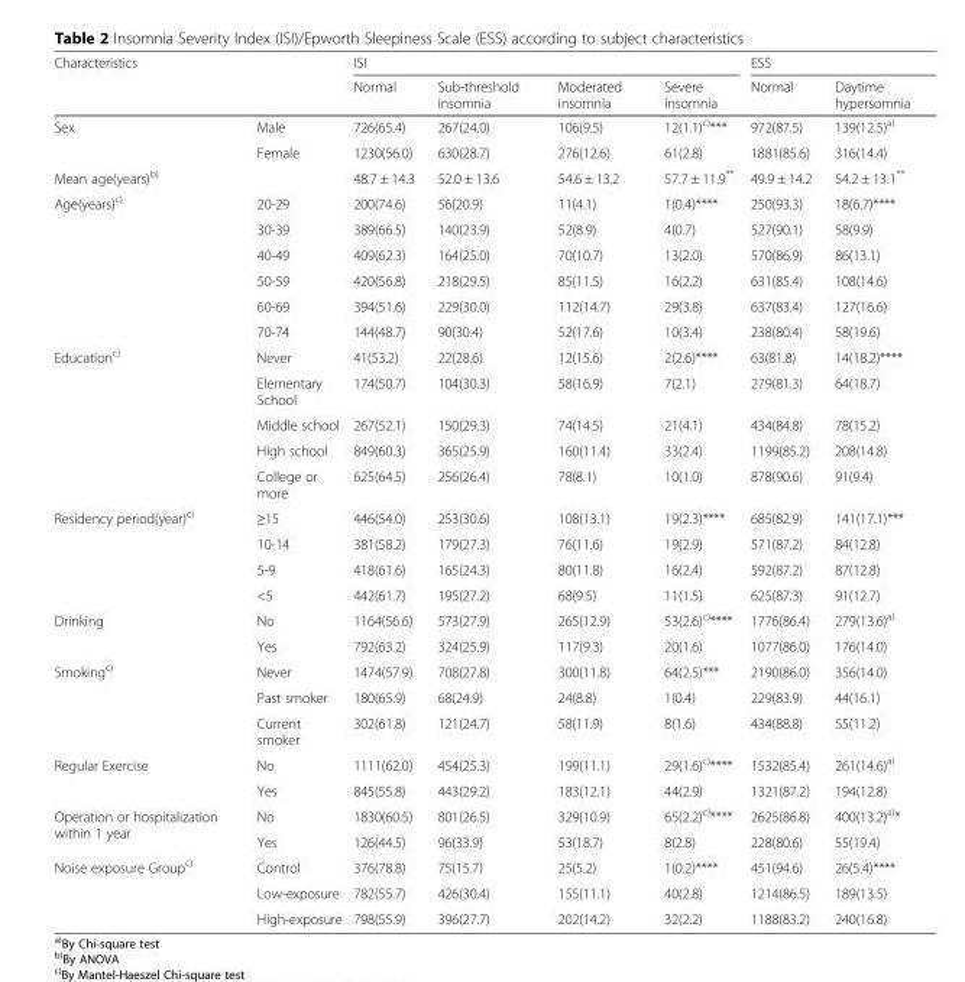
<table><thead><tr><td rowspan="2">Characteristics</td><td rowspan="2"></td><td colspan="4">ISI</td><td colspan="2">ESS</td></tr><tr><td>Normal</td><td>Sub-threshold insomnia</td><td>Moderated insomnia</td><td>Severe insomnia</td><td>Normal</td><td>Daytime hypersomnia</td></tr></thead><tbody><tr><td rowspan="2">Sex</td><td>Male</td><td>726(65.4)</td><td>267(24.0)</td><td>106(9.5)</td><td>12(1.1)<sup>c)</sup>***</td><td>972(87.5)</td><td>139(12.5)<sup>a)</sup></td></tr><tr><td>Female</td><td>1230(56.0)</td><td>630(28.7)</td><td>276(12.6)</td><td>61(2.8)</td><td>1881(85.6)</td><td>316(14.4)</td></tr><tr><td>Mean age(years)<sup>b)</sup></td><td></td><td>48.7 ± 14.3</td><td>52.0 ± 13.6</td><td>54.6 ± 13.2</td><td>57.7 ± 11.9**</td><td>49.9 ± 14.2</td><td>54.2 ± 13.1**</td></tr><tr><td rowspan="6">Age(years)<sup>c)</sup></td><td>20-29</td><td>200(74.6)</td><td>56(20.9)</td><td>11(4.1)</td><td>1(0.4)****</td><td>250(93.3)</td><td>18(6.7)****</td></tr><tr><td>30-39</td><td>389(66.5)</td><td>140(23.9)</td><td>52(8.9)</td><td>4(0.7)</td><td>527(90.1)</td><td>58(9.9)</td></tr><tr><td>40-49</td><td>409(62.3)</td><td>164(25.0)</td><td>70(10.7)</td><td>13(2.0)</td><td>570(86.9)</td><td>86(13.1)</td></tr><tr><td>50-59</td><td>420(56.8)</td><td>218(29.5)</td><td>85(11.5)</td><td>16(2.2)</td><td>631(85.4)</td><td>108(14.6)</td></tr><tr><td>60-69</td><td>394(51.6)</td><td>229(30.0)</td><td>112(14.7)</td><td>29(3.8)</td><td>637(83.4)</td><td>127(16.6)</td></tr><tr><td>70-74</td><td>144(48.7)</td><td>90(30.4)</td><td>52(17.6)</td><td>10(3.4)</td><td>238(80.4)</td><td>58(19.6)</td></tr><tr><td rowspan="5">Education<sup>c)</sup></td><td>Never</td><td>41(53.2)</td><td>22(28.6)</td><td>12(15.6)</td><td>2(2.6)****</td><td>63(81.8)</td><td>14(18.2)****</td></tr><tr><td>Elementary School</td><td>174(50.7)</td><td>104(30.3)</td><td>58(16.9)</td><td>7(2.1)</td><td>279(81.3)</td><td>64(18.7)</td></tr><tr><td>Middle school</td><td>267(52.1)</td><td>150(29.3)</td><td>74(14.5)</td><td>21(4.1)</td><td>434(84.8)</td><td>78(15.2)</td></tr><tr><td>High school</td><td>849(60.3)</td><td>365(25.9)</td><td>160(11.4)</td><td>33(2.4)</td><td>1199(85.2)</td><td>208(14.8)</td></tr><tr><td>College or more</td><td>625(64.5)</td><td>256(26.4)</td><td>78(8.1)</td><td>10(1.0)</td><td>878(90.6)</td><td>91(9.4)</td></tr><tr><td rowspan="4">Residency period(year)<sup>c)</sup></td><td>≥15</td><td>446(54.0)</td><td>253(30.6)</td><td>108(13.1)</td><td>19(2.3)****</td><td>685(82.9)</td><td>141(17.1)***</td></tr><tr><td>10-14</td><td>381(58.2)</td><td>179(27.3)</td><td>76(11.6)</td><td>19(2.9)</td><td>571(87.2)</td><td>84(12.8)</td></tr><tr><td>5-9</td><td>418(61.6)</td><td>165(24.3)</td><td>80(11.8)</td><td>16(2.4)</td><td>592(87.2)</td><td>87(12.8)</td></tr><tr><td>&lt;5</td><td>442(61.7)</td><td>195(27.2)</td><td>68(9.5)</td><td>11(1.5)</td><td>625(87.3)</td><td>91(12.7)</td></tr><tr><td rowspan="2">Drinking</td><td>No</td><td>1164(56.6)</td><td>573(27.9)</td><td>265(12.9)</td><td>53(2.6)<sup>c)</sup>****</td><td>1776(86.4)</td><td>279(13.6)<sup>a)</sup></td></tr><tr><td>Yes</td><td>792(63.2)</td><td>324(25.9)</td><td>117(9.3)</td><td>20(1.6)</td><td>1077(86.0)</td><td>176(14.0)</td></tr><tr><td rowspan="3">Smoking<sup>c)</sup></td><td>Never</td><td>1474(57.9)</td><td>708(27.8)</td><td>300(11.8)</td><td>64(2.5)***</td><td>2190(86.0)</td><td>356(14.0)</td></tr><tr><td>Past smoker</td><td>180(65.9)</td><td>68(24.9)</td><td>24(8.8)</td><td>1(0.4)</td><td>229(83.9)</td><td>44(16.1)</td></tr><tr><td>Current smoker</td><td>302(61.8)</td><td>121(24.7)</td><td>58(11.9)</td><td>8(1.6)</td><td>434(88.8)</td><td>55(11.2)</td></tr><tr><td rowspan="2">Regular Exercise</td><td>No</td><td>1111(62.0)</td><td>454(25.3)</td><td>199(11.1)</td><td>29(1.6)<sup>c)</sup>****</td><td>1532(85.4)</td><td>261(14.6)<sup>a)</sup></td></tr><tr><td>Yes</td><td>845(55.8)</td><td>443(29.2)</td><td>183(12.1)</td><td>44(2.9)</td><td>1321(87.2)</td><td>194(12.8)</td></tr><tr><td rowspan="2">Operation or hospitalization within 1 year</td><td>No</td><td>1830(60.5)</td><td>801(26.5)</td><td>329(10.9)</td><td>65(2.2)<sup>c)</sup>****</td><td>2625(86.8)</td><td>400(13.2)<sup>a)</sup>*</td></tr><tr><td>Yes</td><td>126(44.5)</td><td>96(33.9)</td><td>53(18.7)</td><td>8(2.8)</td><td>228(80.6)</td><td>55(19.4)</td></tr><tr><td rowspan="3">Noise exposure Group<sup>c)</sup></td><td>Control</td><td>376(78.8)</td><td>75(15.7)</td><td>25(5.2)</td><td>1(0.2)****</td><td>451(94.6)</td><td>26(5.4)****</td></tr><tr><td>Low-exposure</td><td>782(55.7)</td><td>426(30.4)</td><td>155(11.1)</td><td>40(2.8)</td><td>1214(86.5)</td><td>189(13.5)</td></tr><tr><td>High-exposure</td><td>798(55.9)</td><td>396(27.7)</td><td>202(14.2)</td><td>32(2.2)</td><td>1188(83.2)</td><td>240(16.8)</td></tr></tbody></table>